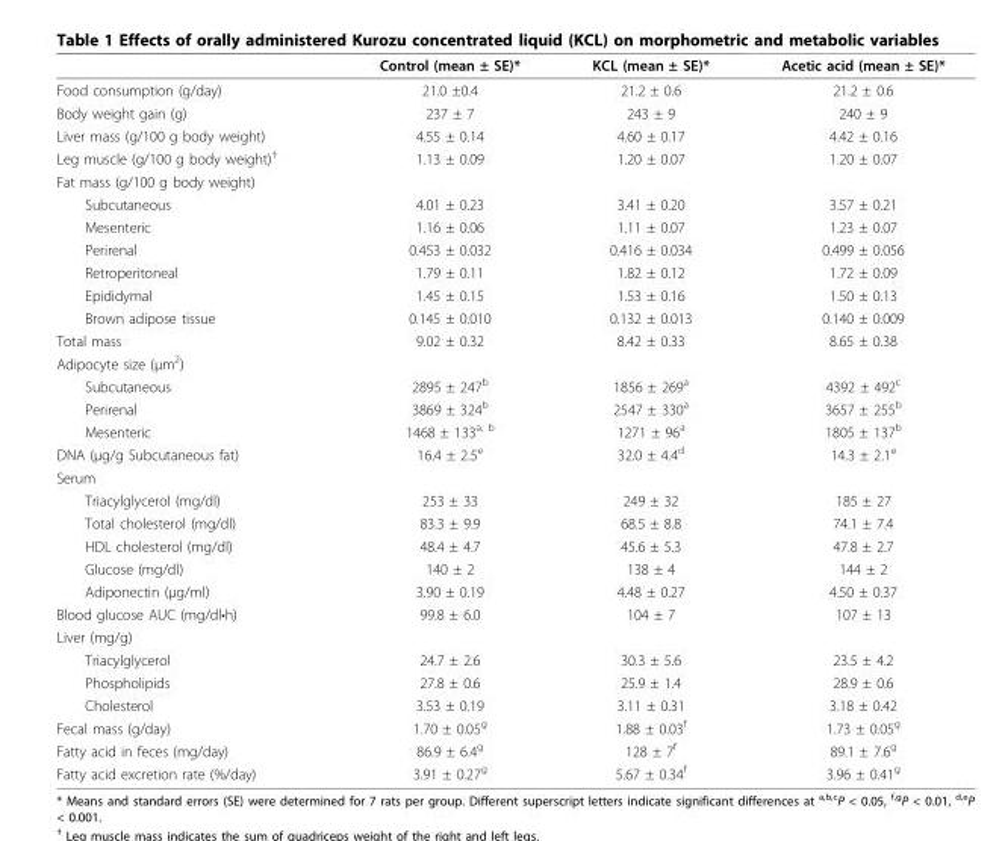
<table><thead><tr><td></td><td>Control (mean ± SE)*</td><td>KCL (mean ± SE)*</td><td>Acetic acid (mean ± SE)*</td></tr></thead><tbody><tr><td>Food consumption (g/day)</td><td>21.0 ±0.4</td><td>21.2 ± 0.6</td><td>21.2 ± 0.6</td></tr><tr><td>Body weight gain (g)</td><td>237 ± 7</td><td>243 ± 9</td><td>240 ± 9</td></tr><tr><td>Liver mass (g/100 g body weight)</td><td>4.55 ± 0.14</td><td>4.60 ± 0.17</td><td>4.42 ± 0.16</td></tr><tr><td>Leg muscle (g/100 g body weight)<sup>†</sup></td><td>1.13 ± 0.09</td><td>1.20 ± 0.07</td><td>1.20 ± 0.07</td></tr><tr><td colspan="4">Fat mass (g/100 g body weight)</td></tr><tr><td>Subcutaneous</td><td>4.01 ± 0.23</td><td>3.41 ± 0.20</td><td>3.57 ± 0.21</td></tr><tr><td>Mesenteric</td><td>1.16 ± 0.06</td><td>1.11 ± 0.07</td><td>1.23 ± 0.07</td></tr><tr><td>Perirenal</td><td>0.453 ± 0.032</td><td>0.416 ± 0.034</td><td>0.499 ± 0.056</td></tr><tr><td>Retroperitoneal</td><td>1.79 ± 0.11</td><td>1.82 ± 0.12</td><td>1.72 ± 0.09</td></tr><tr><td>Epididymal</td><td>1.45 ± 0.15</td><td>1.53 ± 0.16</td><td>1.50 ± 0.13</td></tr><tr><td>Brown adipose tissue</td><td>0.145 ± 0.010</td><td>0.132 ± 0.013</td><td>0.140 ± 0.009</td></tr><tr><td>Total mass</td><td>9.02 ± 0.32</td><td>8.42 ± 0.33</td><td>8.65 ± 0.38</td></tr><tr><td colspan="4">Adipocyte size (μm<sup>2</sup>)</td></tr><tr><td>Subcutaneous</td><td>2895 ± 247<sup>b</sup></td><td>1856 ± 269<sup>a</sup></td><td>4392 ± 492<sup>c</sup></td></tr><tr><td>Perirenal</td><td>3869 ± 324<sup>b</sup></td><td>2547 ± 330<sup>a</sup></td><td>3657 ± 255<sup>b</sup></td></tr><tr><td>Mesenteric</td><td>1468 ± 133<sup>a, b</sup></td><td>1271 ± 96<sup>a</sup></td><td>1805 ± 137<sup>b</sup></td></tr><tr><td>DNA (μg/g Subcutaneous fat)</td><td>16.4 ± 2.5<sup>e</sup></td><td>32.0 ± 4.4<sup>d</sup></td><td>14.3 ± 2.1<sup>e</sup></td></tr><tr><td colspan="4">Serum</td></tr><tr><td>Triacylglycerol (mg/dl)</td><td>253 ± 33</td><td>249 ± 32</td><td>185 ± 27</td></tr><tr><td>Total cholesterol (mg/dl)</td><td>83.3 ± 9.9</td><td>68.5 ± 8.8</td><td>74.1 ± 7.4</td></tr><tr><td>HDL cholesterol (mg/dl)</td><td>48.4 ± 4.7</td><td>45.6 ± 5.3</td><td>47.8 ± 2.7</td></tr><tr><td>Glucose (mg/dl)</td><td>140 ± 2</td><td>138 ± 4</td><td>144 ± 2</td></tr><tr><td>Adiponectin (μg/ml)</td><td>3.90 ± 0.19</td><td>4.48 ± 0.27</td><td>4.50 ± 0.37</td></tr><tr><td>Blood glucose AUC (mg/dl•h)</td><td>99.8 ± 6.0</td><td>104 ± 7</td><td>107 ± 13</td></tr><tr><td colspan="4">Liver (mg/g)</td></tr><tr><td>Triacylglycerol</td><td>24.7 ± 2.6</td><td>30.3 ± 5.6</td><td>23.5 ± 4.2</td></tr><tr><td>Phospholipids</td><td>27.8 ± 0.6</td><td>25.9 ± 1.4</td><td>28.9 ± 0.6</td></tr><tr><td>Cholesterol</td><td>3.53 ± 0.19</td><td>3.11 ± 0.31</td><td>3.18 ± 0.42</td></tr><tr><td>Fecal mass (g/day)</td><td>1.70 ± 0.05<sup>g</sup></td><td>1.88 ± 0.03<sup>f</sup></td><td>1.73 ± 0.05<sup>g</sup></td></tr><tr><td>Fatty acid in feces (mg/day)</td><td>86.9 ± 6.4<sup>g</sup></td><td>128 ± 7<sup>f</sup></td><td>89.1 ± 7.6<sup>g</sup></td></tr><tr><td>Fatty acid excretion rate (%/day)</td><td>3.91 ± 0.27<sup>g</sup></td><td>5.67 ± 0.34<sup>f</sup></td><td>3.96 ± 0.41<sup>g</sup></td></tr></tbody></table>